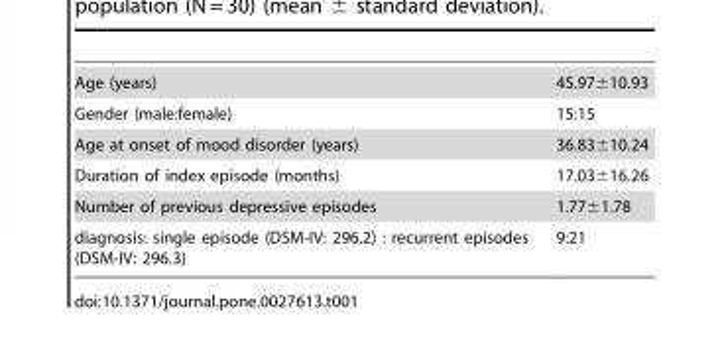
<table><tbody><tr><td>Age (years)</td><td>45.97±10.93</td></tr><tr><td>Gender (male:female)</td><td>15:15</td></tr><tr><td>Age at onset of mood disorder (years)</td><td>36.83±10.24</td></tr><tr><td>Duration of index episode (months)</td><td>17.03±16.26</td></tr><tr><td>Number of previous depressive episodes</td><td>1.77±1.78</td></tr><tr><td>diagnosis: single episode (DSM-IV: 296.2) : recurrent episodes (DSM-IV: 296.3)</td><td>9:21</td></tr></tbody></table>